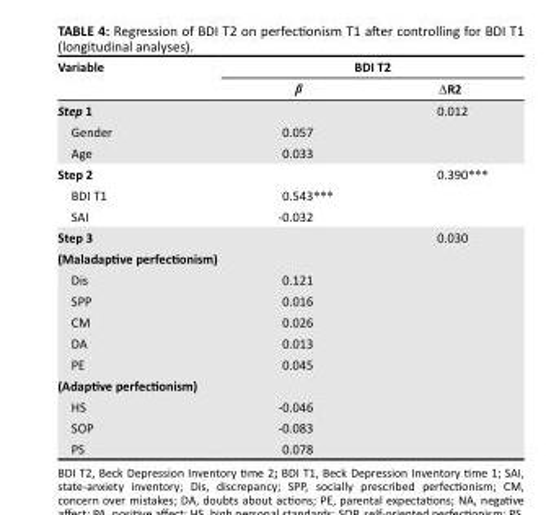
<table><thead><tr><td rowspan="2">Variable</td><td colspan="2">BDI T2</td></tr><tr><td>β</td><td>∆R2</td></tr></thead><tbody><tr><td>Step 1</td><td></td><td>0.012</td></tr><tr><td>Gender</td><td>0.057</td><td></td></tr><tr><td>Age</td><td>0.033</td><td></td></tr><tr><td>Step 2</td><td></td><td>0.390***</td></tr><tr><td>BDI T1</td><td>0.543***</td><td></td></tr><tr><td>SAI</td><td>-0.032</td><td></td></tr><tr><td>Step 3</td><td></td><td>0.030</td></tr><tr><td colspan="3">(Maladaptive perfectionism)</td></tr><tr><td>Dis</td><td>0.121</td><td></td></tr><tr><td>SPP</td><td>0.016</td><td></td></tr><tr><td>CM</td><td>0.026</td><td></td></tr><tr><td>DA</td><td>0.013</td><td></td></tr><tr><td>PE</td><td>0.045</td><td></td></tr><tr><td colspan="3">(Adaptive perfectionism)</td></tr><tr><td>HS</td><td>-0.046</td><td></td></tr><tr><td>SOP</td><td>-0.083</td><td></td></tr><tr><td>PS</td><td>0.078</td><td></td></tr></tbody></table>